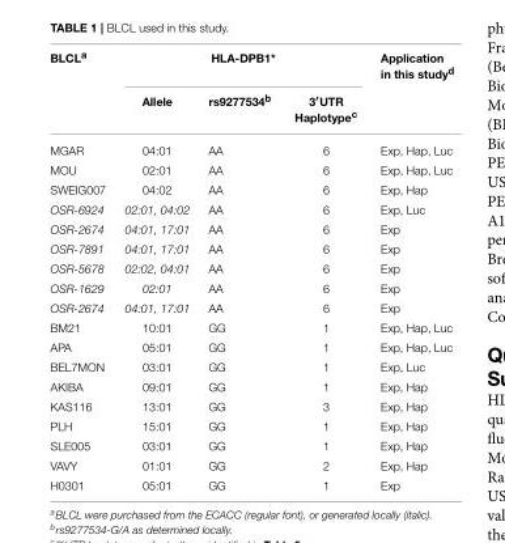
<table><thead><tr><td rowspan="2">BLCL<sup>a</sup></td><td colspan="3">HLA-DPB1*</td><td rowspan="2">Application in this study<sup>d</sup></td></tr><tr><td>Allele</td><td>rs9277534<sup>b</sup></td><td>3′UTR Haplotype<sup>c</sup></td></tr></thead><tbody><tr><td>MGAR</td><td>04:01</td><td>AA</td><td>6</td><td>Exp, Hap, Luc</td></tr><tr><td>MOU</td><td>02:01</td><td>AA</td><td>6</td><td>Exp, Hap, Luc</td></tr><tr><td>SWEIG007</td><td>04:02</td><td>AA</td><td>6</td><td>Exp, Hap</td></tr><tr><td>OSR-6924</td><td>02:01, 04:02</td><td>AA</td><td>6</td><td>Exp, Luc</td></tr><tr><td>OSR-2674</td><td>04:01, 17:01</td><td>AA</td><td>6</td><td>Exp</td></tr><tr><td>OSR-7891</td><td>04:01, 17:01</td><td>AA</td><td>6</td><td>Exp</td></tr><tr><td>OSR-5678</td><td>02:02, 04:01</td><td>AA</td><td>6</td><td>Exp</td></tr><tr><td>OSR-1629</td><td>02:01</td><td>AA</td><td>6</td><td>Exp</td></tr><tr><td>OSR-2674</td><td>04:01, 17:01</td><td>AA</td><td>6</td><td>Exp</td></tr><tr><td>BM21</td><td>10:01</td><td>GG</td><td>1</td><td>Exp, Hap, Luc</td></tr><tr><td>APA</td><td>05:01</td><td>GG</td><td>1</td><td>Exp, Hap, Luc</td></tr><tr><td>BEL7MON</td><td>03:01</td><td>GG</td><td>1</td><td>Exp, Luc</td></tr><tr><td>AKIBA</td><td>09:01</td><td>GG</td><td>1</td><td>Exp, Hap</td></tr><tr><td>KAS116</td><td>13:01</td><td>GG</td><td>3</td><td>Exp, Hap</td></tr><tr><td>PLH</td><td>15:01</td><td>GG</td><td>1</td><td>Exp, Hap</td></tr><tr><td>SLE005</td><td>03:01</td><td>GG</td><td>1</td><td>Exp, Hap</td></tr><tr><td>VAVY</td><td>01:01</td><td>GG</td><td>2</td><td>Exp, Hap</td></tr><tr><td>H0301</td><td>05:01</td><td>GG</td><td>1</td><td>Exp</td></tr></tbody></table>